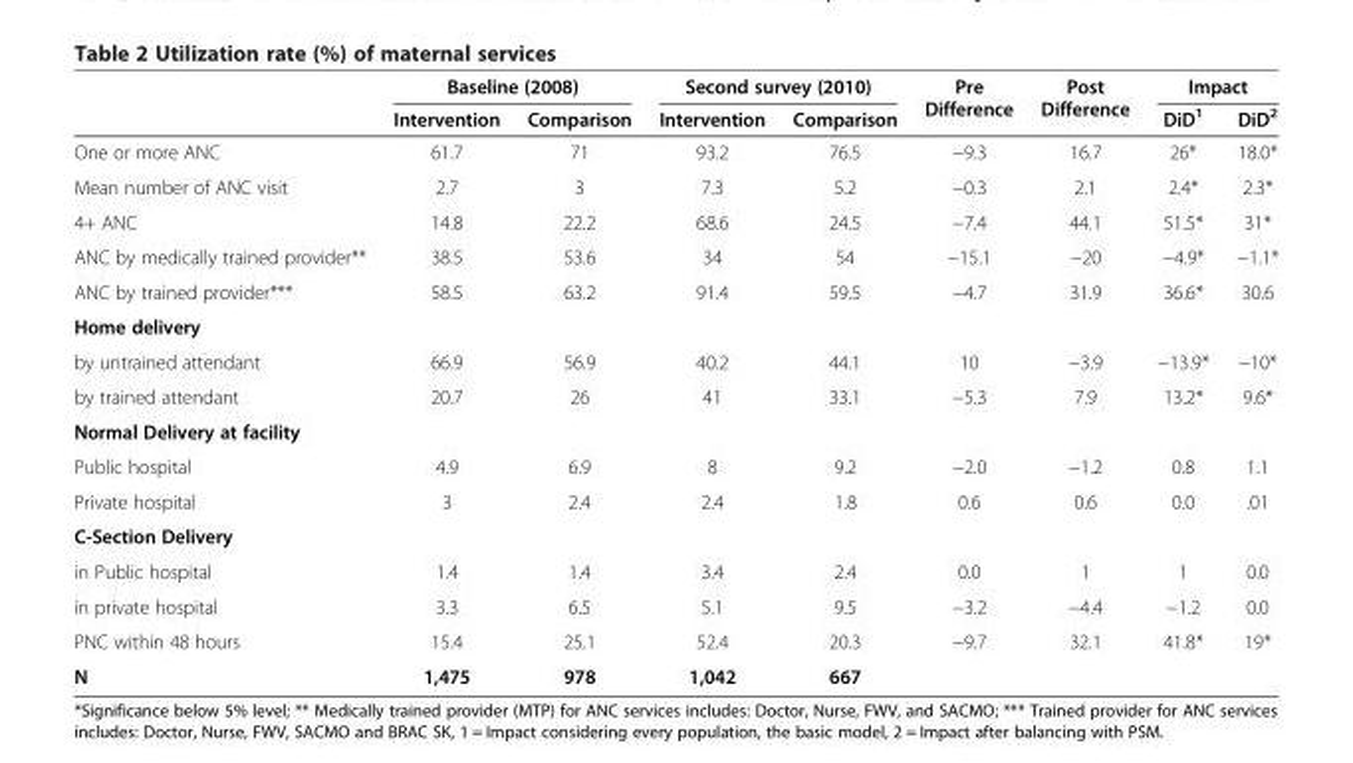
<table><thead><tr><td rowspan="2"></td><td colspan="2">Baseline (2008)</td><td colspan="2">Second survey (2010)</td><td rowspan="2">Pre Difference</td><td rowspan="2">Post Difference</td><td colspan="2">Impact</td></tr><tr><td>Intervention</td><td>Comparison</td><td>Intervention</td><td>Comparison</td><td>DiD<sup>1</sup></td><td>DiD<sup>2</sup></td></tr></thead><tbody><tr><td>One or more ANC</td><td>61.7</td><td>71</td><td>93.2</td><td>76.5</td><td>−9.3</td><td>16.7</td><td>26*</td><td>18.0*</td></tr><tr><td>Mean number of ANC visit</td><td>2.7</td><td>3</td><td>7.3</td><td>5.2</td><td>−0.3</td><td>2.1</td><td>2.4*</td><td>2.3*</td></tr><tr><td>4+ ANC</td><td>14.8</td><td>22.2</td><td>68.6</td><td>24.5</td><td>−7.4</td><td>44.1</td><td>51.5*</td><td>31*</td></tr><tr><td>ANC by medically trained provider**</td><td>38.5</td><td>53.6</td><td>34</td><td>54</td><td>−15.1</td><td>−20</td><td>−4.9*</td><td>−1.1*</td></tr><tr><td>ANC by trained provider***</td><td>58.5</td><td>63.2</td><td>91.4</td><td>59.5</td><td>−4.7</td><td>31.9</td><td>36.6*</td><td>30.6</td></tr><tr><td colspan="9">Home delivery</td></tr><tr><td>by untrained attendant</td><td>66.9</td><td>56.9</td><td>40.2</td><td>44.1</td><td>10</td><td>−3.9</td><td>−13.9*</td><td>−10*</td></tr><tr><td>by trained attendant</td><td>20.7</td><td>26</td><td>41</td><td>33.1</td><td>−5.3</td><td>7.9</td><td>13.2*</td><td>9.6*</td></tr><tr><td colspan="9">Normal Delivery at facility</td></tr><tr><td>Public hospital</td><td>4.9</td><td>6.9</td><td>8</td><td>9.2</td><td>−2.0</td><td>−1.2</td><td>0.8</td><td>1.1</td></tr><tr><td>Private hospital</td><td>3</td><td>2.4</td><td>2.4</td><td>1.8</td><td>0.6</td><td>0.6</td><td>0.0</td><td>.01</td></tr><tr><td colspan="9">C-Section Delivery</td></tr><tr><td>in Public hospital</td><td>1.4</td><td>1.4</td><td>3.4</td><td>2.4</td><td>0.0</td><td>1</td><td>1</td><td>0.0</td></tr><tr><td>in private hospital</td><td>3.3</td><td>6.5</td><td>5.1</td><td>9.5</td><td>−3.2</td><td>−4.4</td><td>−1.2</td><td>0.0</td></tr><tr><td>PNC within 48 hours</td><td>15.4</td><td>25.1</td><td>52.4</td><td>20.3</td><td>−9.7</td><td>32.1</td><td>41.8*</td><td>19*</td></tr><tr><td>N</td><td>1,475</td><td>978</td><td>1,042</td><td>667</td><td></td><td></td><td></td><td></td></tr></tbody></table>